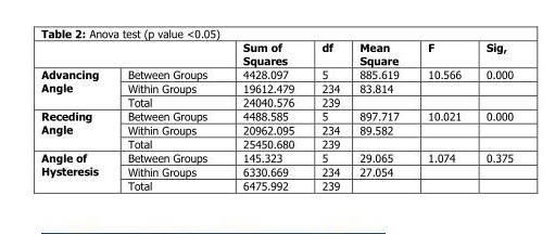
<table><thead><tr><td></td><td></td><td>Sum of Squares</td><td>df</td><td>Mean Square</td><td>F</td><td>Sig,</td></tr></thead><tbody><tr><td rowspan="3">Advancing Angle</td><td>Between Groups</td><td>4428.097</td><td>5</td><td>885.619</td><td>10.566</td><td>0.000</td></tr><tr><td>Within Groups</td><td>19612.479</td><td>234</td><td>83.814</td><td></td><td></td></tr><tr><td>Total</td><td>24040.576</td><td>239</td><td></td><td></td><td></td></tr><tr><td rowspan="3">Receding Angle</td><td>Between Groups</td><td>4488.585</td><td>5</td><td>897.717</td><td>10.021</td><td>0.000</td></tr><tr><td>Within Groups</td><td>20962.095</td><td>234</td><td>89.582</td><td></td><td></td></tr><tr><td>Total</td><td>25450.680</td><td>239</td><td></td><td></td><td></td></tr><tr><td rowspan="3">Angle of Hysteresis</td><td>Between Groups</td><td>145.323</td><td>5</td><td>29.065</td><td>1.074</td><td>0.375</td></tr><tr><td>Within Groups</td><td>6330.669</td><td>234</td><td>27.054</td><td></td><td></td></tr><tr><td>Total</td><td>6475.992</td><td>239</td><td></td><td></td><td></td></tr></tbody></table>